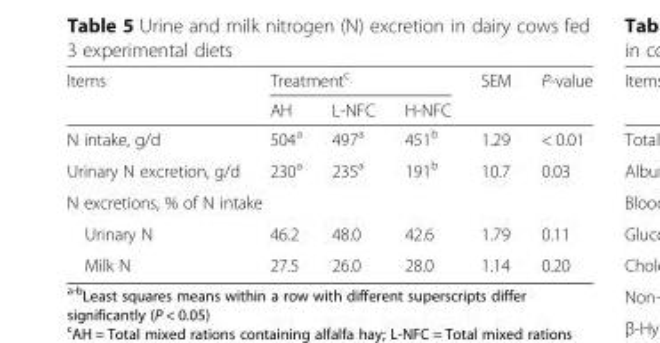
<table><thead><tr><td rowspan="2">Items</td><td colspan="3">Treatment<sup>c</sup></td><td rowspan="2">SEM</td><td rowspan="2">P-value</td></tr><tr><td>AH</td><td>L-NFC</td><td>H-NFC</td></tr></thead><tbody><tr><td>N intake, g/d</td><td>504<sup>a</sup></td><td>497<sup>a</sup></td><td>451<sup>b</sup></td><td>1.29</td><td>&lt; 0.01</td></tr><tr><td>Urinary N excretion, g/d</td><td>230<sup>a</sup></td><td>235<sup>a</sup></td><td>191<sup>b</sup></td><td>10.7</td><td>0.03</td></tr><tr><td colspan="6">N excretions, % of N intake</td></tr><tr><td>Urinary N</td><td>46.2</td><td>48.0</td><td>42.6</td><td>1.79</td><td>0.11</td></tr><tr><td>Milk N</td><td>27.5</td><td>26.0</td><td>28.0</td><td>1.14</td><td>0.20</td></tr></tbody></table>